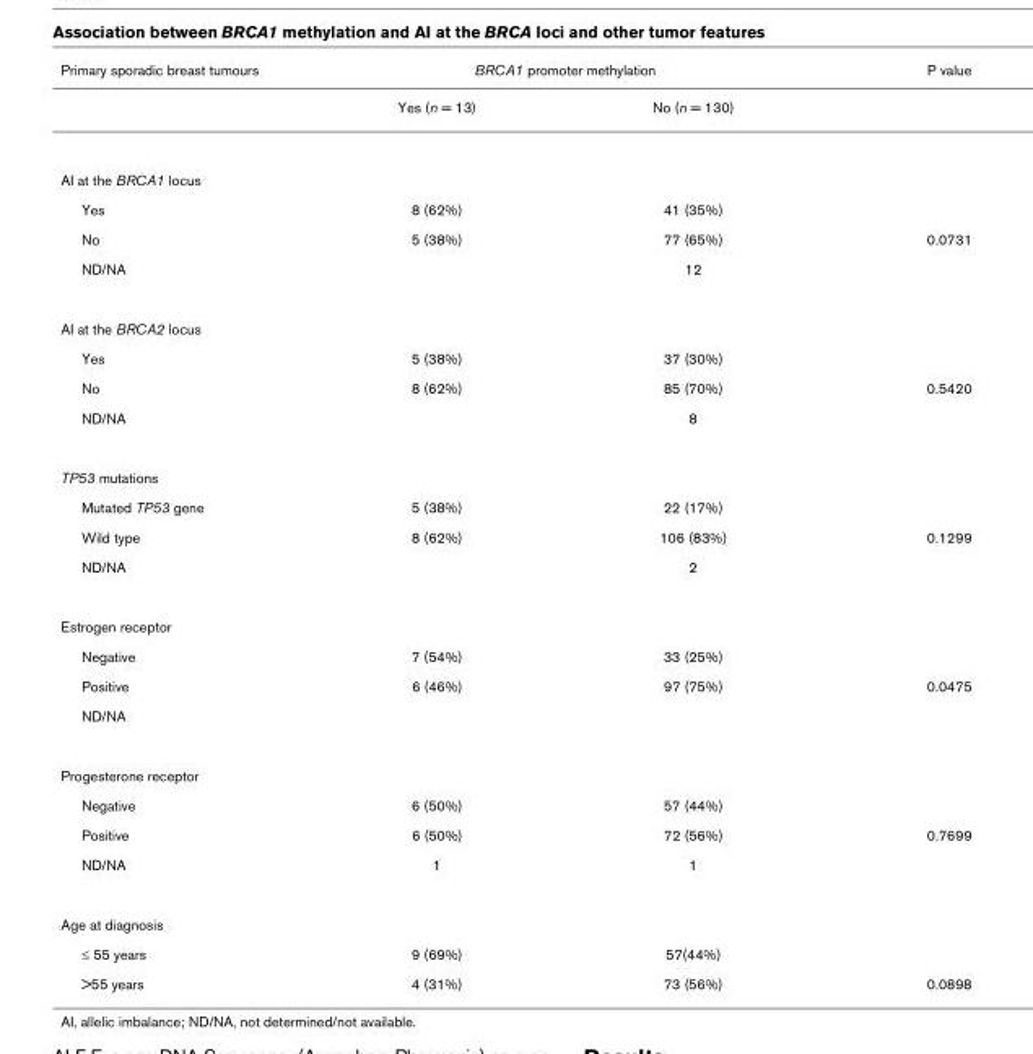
<table><thead><tr><td rowspan="2">Primary sporadic breast tumours</td><td colspan="2">BRCA1 promoter methylation</td><td rowspan="2">P value</td></tr><tr><td>Yes (n = 13)</td><td>No (n = 130)</td></tr></thead><tbody><tr><td colspan="4">AI at the BRCA1 locus</td></tr><tr><td>Yes</td><td>8 (62%)</td><td>41 (35%)</td><td></td></tr><tr><td>No</td><td>5 (38%)</td><td>77 (65%)</td><td>0.0731</td></tr><tr><td>ND/NA</td><td></td><td>12</td><td></td></tr><tr><td colspan="4">AI at the BRCA2 locus</td></tr><tr><td>Yes</td><td>5 (38%)</td><td>37 (30%)</td><td></td></tr><tr><td>No</td><td>8 (62%)</td><td>85 (70%)</td><td>0.5420</td></tr><tr><td>ND/NA</td><td></td><td>8</td><td></td></tr><tr><td colspan="4">TP53 mutations</td></tr><tr><td>Mutated TP53 gene</td><td>5 (38%)</td><td>22 (17%)</td><td></td></tr><tr><td>Wild type</td><td>8 (62%)</td><td>106 (83%)</td><td>0.1299</td></tr><tr><td>ND/NA</td><td></td><td>2</td><td></td></tr><tr><td colspan="4">Estrogen receptor</td></tr><tr><td>Negative</td><td>7 (54%)</td><td>33 (25%)</td><td></td></tr><tr><td>Positive</td><td>6 (46%)</td><td>97 (75%)</td><td>0.0475</td></tr><tr><td colspan="4">ND/NA</td></tr><tr><td colspan="4">Progesterone receptor</td></tr><tr><td>Negative</td><td>6 (50%)</td><td>57 (44%)</td><td></td></tr><tr><td>Positive</td><td>6 (50%)</td><td>72 (56%)</td><td>0.7699</td></tr><tr><td>ND/NA</td><td>1</td><td>1</td><td></td></tr><tr><td colspan="4">Age at diagnosis</td></tr><tr><td>≤ 55 years</td><td>9 (69%)</td><td>57(44%)</td><td></td></tr><tr><td>&gt;55 years</td><td>4 (31%)</td><td>73 (56%)</td><td>0.0898</td></tr></tbody></table>